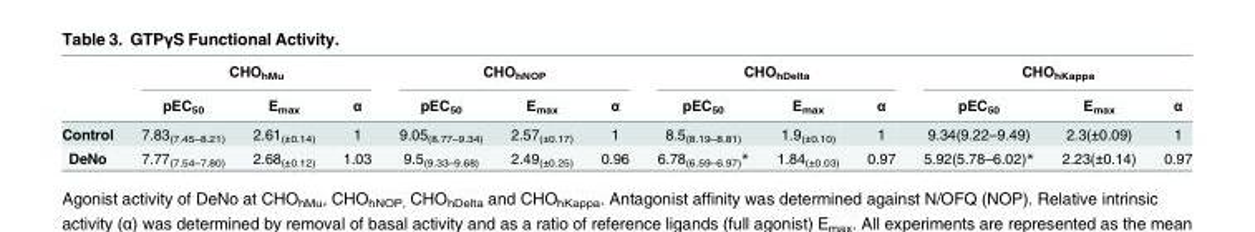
<table><thead><tr><td rowspan="2"></td><td colspan="3">CHO<sub>hMu</sub></td><td colspan="3">CHO<sub>hNOP</sub></td><td colspan="3">CHO<sub>hDelta</sub></td><td colspan="3">CHO<sub>hKappa</sub></td></tr><tr><td>pEC<sub>50</sub></td><td>E<sub>max</sub></td><td>α</td><td>pEC<sub>50</sub></td><td>E<sub>max</sub></td><td>α</td><td>pEC<sub>50</sub></td><td>E<sub>max</sub></td><td>α</td><td>pEC<sub>50</sub></td><td>E<sub>max</sub></td><td>α</td></tr></thead><tbody><tr><td>Control</td><td>7.83<sub>(7.45–8.21)</sub></td><td>2.61<sub>(±0.14)</sub></td><td>1</td><td>9.05<sub>(8.77–9.34)</sub></td><td>2.57<sub>(±0.17)</sub></td><td>1</td><td>8.5<sub>(8.19–8.81)</sub></td><td>1.9<sub>(±0.10)</sub></td><td>1</td><td>9.34(9.22–9.49)</td><td>2.3(±0.09)</td><td>1</td></tr><tr><td>DeNo</td><td>7.77<sub>(7.54–7.80)</sub></td><td>2.68<sub>(±0.12)</sub></td><td>1.03</td><td>9.5<sub>(9.33–9.68)</sub></td><td>2.49<sub>(±0.25)</sub></td><td>0.96</td><td>6.78<sub>(6.59–6.97)</sub>*</td><td>1.84<sub>(±0.03)</sub></td><td>0.97</td><td>5.92(5.78–6.02)*</td><td>2.23(±0.14)</td><td>0.97</td></tr></tbody></table>